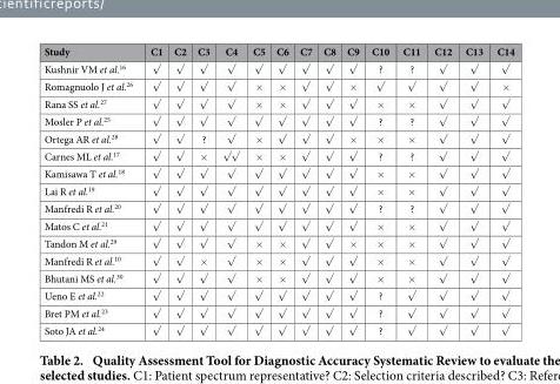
<table><thead><tr><td>Study</td><td>C1</td><td>C2</td><td>C3</td><td>C4</td><td>C5</td><td>C6</td><td>C7</td><td>C8</td><td>C9</td><td>C10</td><td>C11</td><td>C12</td><td>C13</td><td>C14</td></tr></thead><tbody><tr><td>Kushnir VM et al.<sup>16</sup></td><td>√</td><td>√</td><td>√</td><td>√</td><td>√</td><td>√</td><td>√</td><td>√</td><td>√</td><td>?</td><td>?</td><td>√</td><td>√</td><td>√</td></tr><tr><td>Romagnuolo J et al.<sup>26</sup></td><td>√</td><td>√</td><td>√</td><td>√</td><td>×</td><td>×</td><td>√</td><td>√</td><td>×</td><td>√</td><td>√</td><td>√</td><td>√</td><td>×</td></tr><tr><td>Rana SS et al.<sup>27</sup></td><td>√</td><td>√</td><td>√</td><td>√</td><td>×</td><td>×</td><td>√</td><td>√</td><td>√</td><td>×</td><td>×</td><td>√</td><td>√</td><td>√</td></tr><tr><td>Mosler P et al.<sup>25</sup></td><td>√</td><td>√</td><td>√</td><td>√</td><td>√</td><td>√</td><td>√</td><td>√</td><td>√</td><td>?</td><td>?</td><td>√</td><td>√</td><td>√</td></tr><tr><td>Ortega AR et al.<sup>28</sup></td><td>√</td><td>√</td><td>?</td><td>√</td><td>×</td><td>√</td><td>√</td><td>√</td><td>×</td><td>×</td><td>×</td><td>√</td><td>√</td><td>√</td></tr><tr><td>Carnes ML et al.<sup>17</sup></td><td>√</td><td>√</td><td>×</td><td>√ √</td><td>×</td><td>×</td><td>√</td><td>√</td><td>√</td><td>?</td><td>?</td><td>√</td><td>√</td><td>√</td></tr><tr><td>Kamisawa T et al.<sup>18</sup></td><td>√</td><td>√</td><td>√</td><td>√</td><td>√</td><td>√</td><td>√</td><td>√</td><td>√</td><td>×</td><td>×</td><td>√</td><td>√</td><td>√</td></tr><tr><td>Lai R et al.<sup>19</sup></td><td>√</td><td>√</td><td>√</td><td>√</td><td>√</td><td>√</td><td>√</td><td>√</td><td>√</td><td>×</td><td>×</td><td>√</td><td>√</td><td>√</td></tr><tr><td>Manfredi R et al.<sup>20</sup></td><td>√</td><td>√</td><td>√</td><td>√</td><td>√</td><td>√</td><td>√</td><td>√</td><td>√</td><td>?</td><td>?</td><td>√</td><td>√</td><td>√</td></tr><tr><td>Matos C et al.<sup>21</sup></td><td>√</td><td>√</td><td>√</td><td>√</td><td>√</td><td>√</td><td>√</td><td>√</td><td>√</td><td>×</td><td>×</td><td>√</td><td>√</td><td>√</td></tr><tr><td>Tandon M et al.<sup>29</sup></td><td>√</td><td>√</td><td>√</td><td>√</td><td>×</td><td>×</td><td>√</td><td>√</td><td>×</td><td>×</td><td>×</td><td>√</td><td>√</td><td>√</td></tr><tr><td>Manfredi R et al.<sup>10</sup></td><td>√</td><td>√</td><td>×</td><td>√</td><td>×</td><td>×</td><td>√</td><td>√</td><td>√</td><td>×</td><td>×</td><td>√</td><td>√</td><td>√</td></tr><tr><td>Bhutani MS et al.<sup>30</sup></td><td>√</td><td>√</td><td>√</td><td>√</td><td>×</td><td>×</td><td>√</td><td>√</td><td>√</td><td>×</td><td>×</td><td>√</td><td>√</td><td>√</td></tr><tr><td>Ueno E et al.<sup>22</sup></td><td>√</td><td>√</td><td>√</td><td>√</td><td>√</td><td>√</td><td>√</td><td>√</td><td>√</td><td>?</td><td>√</td><td>√</td><td>√</td><td>√</td></tr><tr><td>Bret PM et al.<sup>23</sup></td><td>√</td><td>√</td><td>√</td><td>√</td><td>√</td><td>√</td><td>√</td><td>√</td><td>√</td><td>?</td><td>√</td><td>√</td><td>√</td><td>√</td></tr><tr><td>Soto JA et al.<sup>24</sup></td><td>√</td><td>√</td><td>√</td><td>√</td><td>√</td><td>√</td><td>√</td><td>√</td><td>√</td><td>?</td><td>√</td><td>√</td><td>√</td><td>√</td></tr></tbody></table>